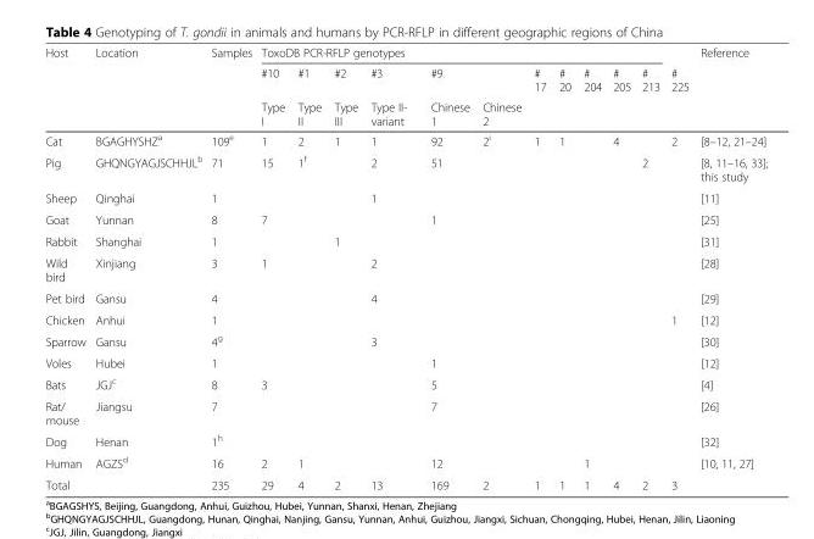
<table><thead><tr><td rowspan="3">Host</td><td rowspan="3">Location</td><td rowspan="3">Samples</td><td colspan="11">ToxoDB PCR-RFLP genotypes</td><td rowspan="3"># 225</td><td rowspan="3">Reference</td></tr><tr><td rowspan="2">#10 Type I</td><td rowspan="2">#1 Type II</td><td rowspan="2">#2 Type III</td><td rowspan="2">#3 Type II- variant</td><td rowspan="2">#9 Chinese 1</td><td rowspan="2">Chinese 2</td><td rowspan="2"># 17</td><td rowspan="2"># 20</td><td rowspan="2"># 204</td><td rowspan="2"># 205</td><td rowspan="2"># 213</td></tr><tr></tr></thead><tbody><tr><td>Cat</td><td>BGAGHYSHZ<sup>a</sup></td><td>109<sup>e</sup></td><td>1</td><td>2</td><td>1</td><td>1</td><td>92</td><td>2<sup>i</sup></td><td>1</td><td>1</td><td></td><td>4</td><td></td><td>2</td><td>[8–12, 21–24]</td></tr><tr><td>Pig</td><td>GHQNGYAGJSCHHJL<sup>b</sup></td><td>71</td><td>15</td><td>1<sup>f</sup></td><td></td><td>2</td><td>51</td><td></td><td></td><td></td><td></td><td></td><td>2</td><td></td><td>[8, 11–16, 33]; this study</td></tr><tr><td>Sheep</td><td>Qinghai</td><td>1</td><td></td><td></td><td></td><td>1</td><td></td><td></td><td></td><td></td><td></td><td></td><td></td><td></td><td>[11]</td></tr><tr><td>Goat</td><td>Yunnan</td><td>8</td><td>7</td><td></td><td></td><td></td><td>1</td><td></td><td></td><td></td><td></td><td></td><td></td><td></td><td>[25]</td></tr><tr><td>Rabbit</td><td>Shanghai</td><td>1</td><td></td><td></td><td>1</td><td></td><td></td><td></td><td></td><td></td><td></td><td></td><td></td><td></td><td>[31]</td></tr><tr><td>Wild bird</td><td>Xinjiang</td><td>3</td><td>1</td><td></td><td></td><td>2</td><td></td><td></td><td></td><td></td><td></td><td></td><td></td><td></td><td>[28]</td></tr><tr><td>Pet bird</td><td>Gansu</td><td>4</td><td></td><td></td><td></td><td>4</td><td></td><td></td><td></td><td></td><td></td><td></td><td></td><td></td><td>[29]</td></tr><tr><td>Chicken</td><td>Anhui</td><td>1</td><td></td><td></td><td></td><td></td><td></td><td></td><td></td><td></td><td></td><td></td><td></td><td>1</td><td>[12]</td></tr><tr><td>Sparrow</td><td>Gansu</td><td>4<sup>g</sup></td><td></td><td></td><td></td><td>3</td><td></td><td></td><td></td><td></td><td></td><td></td><td></td><td></td><td>[30]</td></tr><tr><td>Voles</td><td>Hubei</td><td>1</td><td></td><td></td><td></td><td></td><td>1</td><td></td><td></td><td></td><td></td><td></td><td></td><td></td><td>[12]</td></tr><tr><td>Bats</td><td>JGJ<sup>c</sup></td><td>8</td><td>3</td><td></td><td></td><td></td><td>5</td><td></td><td></td><td></td><td></td><td></td><td></td><td></td><td>[4]</td></tr><tr><td>Rat/ mouse</td><td>Jiangsu</td><td>7</td><td></td><td></td><td></td><td></td><td>7</td><td></td><td></td><td></td><td></td><td></td><td></td><td></td><td>[26]</td></tr><tr><td>Dog</td><td>Henan</td><td>1<sup>h</sup></td><td></td><td></td><td></td><td></td><td></td><td></td><td></td><td></td><td></td><td></td><td></td><td></td><td>[32]</td></tr><tr><td>Human</td><td>AGZS<sup>d</sup></td><td>16</td><td>2</td><td>1</td><td></td><td></td><td>12</td><td></td><td></td><td></td><td>1</td><td></td><td></td><td></td><td>[10, 11, 27]</td></tr><tr><td>Total</td><td></td><td>235</td><td>29</td><td>4</td><td>2</td><td>13</td><td>169</td><td>2</td><td>1</td><td>1</td><td>1</td><td>4</td><td>2</td><td>3</td><td></td></tr></tbody></table>